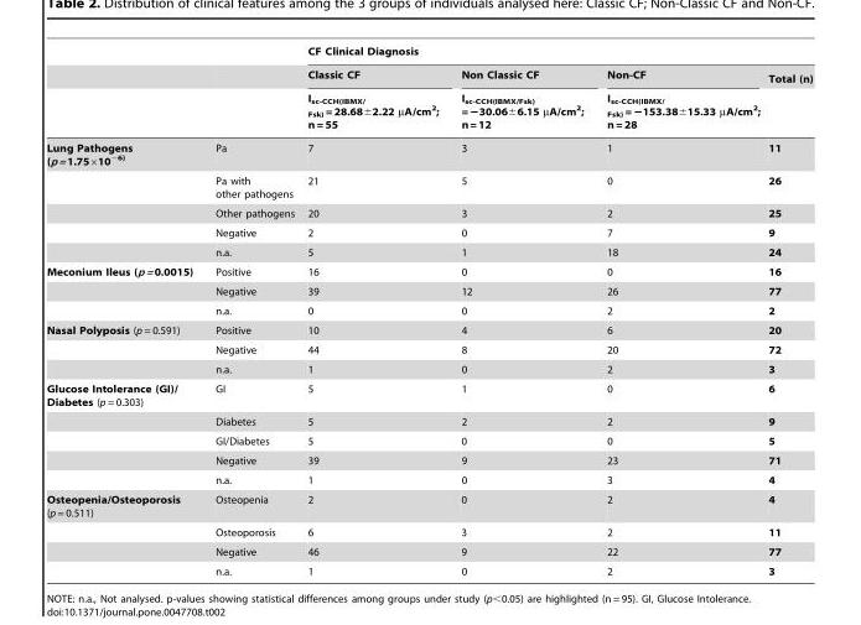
<table><thead><tr><td rowspan="3"></td><td rowspan="3"></td><td colspan="4">CF Clinical Diagnosis</td></tr><tr><td rowspan="2">Classic CF I<sub>sc-CCH(IBMX/ Fsk)</sub> = 28.68±2.22 µA/cm<sup>2</sup>; n = 55</td><td rowspan="2">Non Classic CF I<sub>sc-CCH(IBMX/Fsk)</sub> = −30.06±6.15 µA/cm<sup>2</sup>; n = 12</td><td rowspan="2">Non-CF I<sub>sc-CCH(IBMX/ Fsk)</sub> = −153.38±15.33 µA/cm<sup>2</sup>; n = 28</td><td rowspan="2">Total (n)</td></tr><tr></tr></thead><tbody><tr><td rowspan="5">Lung Pathogens (p = 1.75×10<sup>−6)</sup></td><td>Pa</td><td>7</td><td>3</td><td>1</td><td>11</td></tr><tr><td>Pa with other pathogens</td><td>21</td><td>5</td><td>0</td><td>26</td></tr><tr><td>Other pathogens</td><td>20</td><td>3</td><td>2</td><td>25</td></tr><tr><td>Negative</td><td>2</td><td>0</td><td>7</td><td>9</td></tr><tr><td>n.a.</td><td>5</td><td>1</td><td>18</td><td>24</td></tr><tr><td rowspan="3">Meconium Ileus (p = 0.0015)</td><td>Positive</td><td>16</td><td>0</td><td>0</td><td>16</td></tr><tr><td>Negative</td><td>39</td><td>12</td><td>26</td><td>77</td></tr><tr><td>n.a.</td><td>0</td><td>0</td><td>2</td><td>2</td></tr><tr><td rowspan="3">Nasal Polyposis (p = 0.591)</td><td>Positive</td><td>10</td><td>4</td><td>6</td><td>20</td></tr><tr><td>Negative</td><td>44</td><td>8</td><td>20</td><td>72</td></tr><tr><td>n.a.</td><td>1</td><td>0</td><td>2</td><td>3</td></tr><tr><td rowspan="5">Glucose Intolerance (GI)/ Diabetes (p = 0.303)</td><td>GI</td><td>5</td><td>1</td><td>0</td><td>6</td></tr><tr><td>Diabetes</td><td>5</td><td>2</td><td>2</td><td>9</td></tr><tr><td>GI/Diabetes</td><td>5</td><td>0</td><td>0</td><td>5</td></tr><tr><td>Negative</td><td>39</td><td>9</td><td>23</td><td>71</td></tr><tr><td>n.a.</td><td>1</td><td>0</td><td>3</td><td>4</td></tr><tr><td rowspan="4">Osteopenia/Osteoporosis (p = 0.511)</td><td>Osteopenia</td><td>2</td><td>0</td><td>2</td><td>4</td></tr><tr><td>Osteoporosis</td><td>6</td><td>3</td><td>2</td><td>11</td></tr><tr><td>Negative</td><td>46</td><td>9</td><td>22</td><td>77</td></tr><tr><td>n.a.</td><td>1</td><td>0</td><td>2</td><td>3</td></tr></tbody></table>